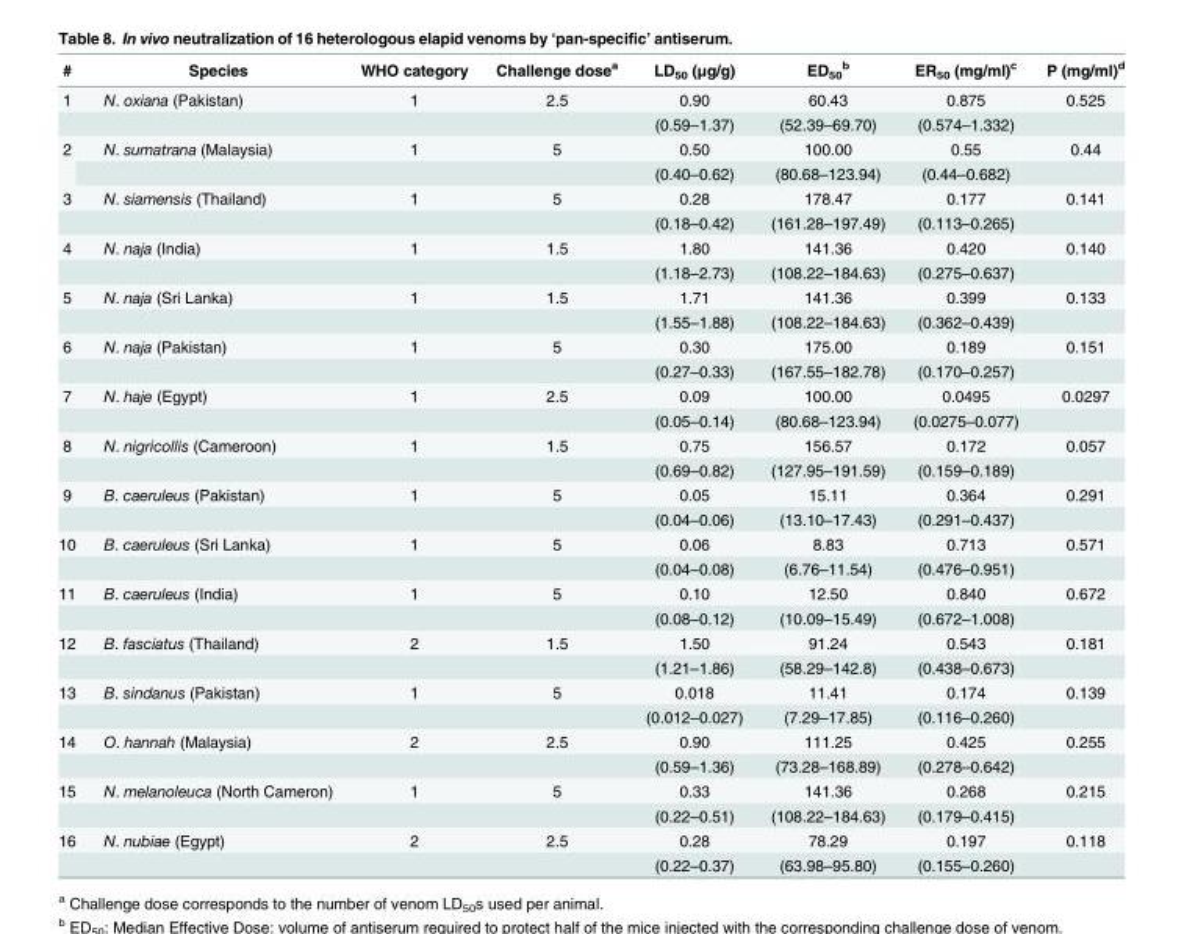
<table><thead><tr><td>#</td><td>Species</td><td>WHO category</td><td>Challenge dose<sup>a</sup></td><td>LD<sub>50</sub> (μg/g)</td><td>ED<sub>50</sub> <sup>b</sup></td><td>ER<sub>50</sub> (mg/ml)<sup>c</sup></td><td>P (mg/ml)<sup>d</sup></td></tr></thead><tbody><tr><td rowspan="2">1</td><td>N. oxiana (Pakistan)</td><td>1</td><td>2.5</td><td>0.90</td><td>60.43</td><td>0.875</td><td>0.525</td></tr><tr><td></td><td></td><td></td><td>(0.59–1.37)</td><td>(52.39–69.70)</td><td>(0.574–1.332)</td><td></td></tr><tr><td rowspan="2">2</td><td>N. sumatrana (Malaysia)</td><td>1</td><td>5</td><td>0.50</td><td>100.00</td><td>0.55</td><td>0.44</td></tr><tr><td></td><td></td><td></td><td>(0.40–0.62)</td><td>(80.68–123.94)</td><td>(0.44–0.682)</td><td></td></tr><tr><td rowspan="2">3</td><td>N. siamensis (Thailand)</td><td>1</td><td>5</td><td>0.28</td><td>178.47</td><td>0.177</td><td>0.141</td></tr><tr><td></td><td></td><td></td><td>(0.18–0.42)</td><td>(161.28–197.49)</td><td>(0.113–0.265)</td><td></td></tr><tr><td rowspan="2">4</td><td>N. naja (India)</td><td>1</td><td>1.5</td><td>1.80</td><td>141.36</td><td>0.420</td><td>0.140</td></tr><tr><td></td><td></td><td></td><td>(1.18–2.73)</td><td>(108.22–184.63)</td><td>(0.275–0.637)</td><td></td></tr><tr><td rowspan="2">5</td><td>N. naja (Sri Lanka)</td><td>1</td><td>1.5</td><td>1.71</td><td>141.36</td><td>0.399</td><td>0.133</td></tr><tr><td></td><td></td><td></td><td>(1.55–1.88)</td><td>(108.22–184.63)</td><td>(0.362–0.439)</td><td></td></tr><tr><td rowspan="2">6</td><td>N. naja (Pakistan)</td><td>1</td><td>5</td><td>0.30</td><td>175.00</td><td>0.189</td><td>0.151</td></tr><tr><td></td><td></td><td></td><td>(0.27–0.33)</td><td>(167.55–182.78)</td><td>(0.170–0.257)</td><td></td></tr><tr><td rowspan="2">7</td><td>N. haje (Egypt)</td><td>1</td><td>2.5</td><td>0.09</td><td>100.00</td><td>0.0495</td><td>0.0297</td></tr><tr><td></td><td></td><td></td><td>(0.05–0.14)</td><td>(80.68–123.94)</td><td>(0.0275–0.077)</td><td></td></tr><tr><td rowspan="2">8</td><td>N. nigricollis (Cameroon)</td><td>1</td><td>1.5</td><td>0.75</td><td>156.57</td><td>0.172</td><td>0.057</td></tr><tr><td></td><td></td><td></td><td>(0.69–0.82)</td><td>(127.95–191.59)</td><td>(0.159–0.189)</td><td></td></tr><tr><td rowspan="2">9</td><td>B. caeruleus (Pakistan)</td><td>1</td><td>5</td><td>0.05</td><td>15.11</td><td>0.364</td><td>0.291</td></tr><tr><td></td><td></td><td></td><td>(0.04–0.06)</td><td>(13.10–17.43)</td><td>(0.291–0.437)</td><td></td></tr><tr><td rowspan="2">10</td><td>B. caeruleus (Sri Lanka)</td><td>1</td><td>5</td><td>0.06</td><td>8.83</td><td>0.713</td><td>0.571</td></tr><tr><td></td><td></td><td></td><td>(0.04–0.08)</td><td>(6.76–11.54)</td><td>(0.476–0.951)</td><td></td></tr><tr><td rowspan="2">11</td><td>B. caeruleus (India)</td><td>1</td><td>5</td><td>0.10</td><td>12.50</td><td>0.840</td><td>0.672</td></tr><tr><td></td><td></td><td></td><td>(0.08–0.12)</td><td>(10.09–15.49)</td><td>(0.672–1.008)</td><td></td></tr><tr><td rowspan="2">12</td><td>B. fasciatus (Thailand)</td><td>2</td><td>1.5</td><td>1.50</td><td>91.24</td><td>0.543</td><td>0.181</td></tr><tr><td></td><td></td><td></td><td>(1.21–1.86)</td><td>(58.29–142.8)</td><td>(0.438–0.673)</td><td></td></tr><tr><td rowspan="2">13</td><td>B. sindanus (Pakistan)</td><td>1</td><td>5</td><td>0.018</td><td>11.41</td><td>0.174</td><td>0.139</td></tr><tr><td></td><td></td><td></td><td>(0.012–0.027)</td><td>(7.29–17.85)</td><td>(0.116–0.260)</td><td></td></tr><tr><td rowspan="2">14</td><td>O. hannah (Malaysia)</td><td>2</td><td>2.5</td><td>0.90</td><td>111.25</td><td>0.425</td><td>0.255</td></tr><tr><td></td><td></td><td></td><td>(0.59–1.36)</td><td>(73.28–168.89)</td><td>(0.278–0.642)</td><td></td></tr><tr><td rowspan="2">15</td><td>N. melanoleuca (North Cameron)</td><td>1</td><td>5</td><td>0.33</td><td>141.36</td><td>0.268</td><td>0.215</td></tr><tr><td></td><td></td><td></td><td>(0.22–0.51)</td><td>(108.22–184.63)</td><td>(0.179–0.415)</td><td></td></tr><tr><td rowspan="2">16</td><td>N. nubiae (Egypt)</td><td>2</td><td>2.5</td><td>0.28</td><td>78.29</td><td>0.197</td><td>0.118</td></tr><tr><td></td><td></td><td></td><td>(0.22–0.37)</td><td>(63.98–95.80)</td><td>(0.155–0.260)</td><td></td></tr></tbody></table>